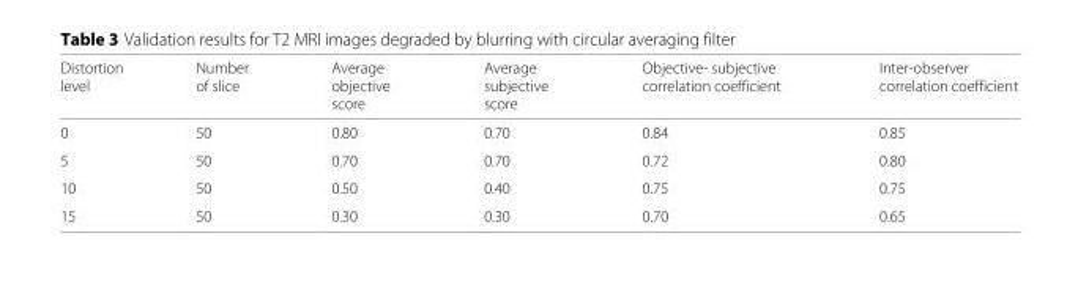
<table><thead><tr><td>Distortion level</td><td>Number of slice</td><td>Average objective score</td><td>Average subjective score</td><td>Objective- subjective correlation coefficient</td><td>Inter-observer correlation coefficient</td></tr></thead><tbody><tr><td>0</td><td>50</td><td>0.80</td><td>0.70</td><td>0.84</td><td>0.85</td></tr><tr><td>5</td><td>50</td><td>0.70</td><td>0.70</td><td>0.72</td><td>0.80</td></tr><tr><td>10</td><td>50</td><td>0.50</td><td>0.40</td><td>0.75</td><td>0.75</td></tr><tr><td>15</td><td>50</td><td>0.30</td><td>0.30</td><td>0.70</td><td>0.65</td></tr></tbody></table>